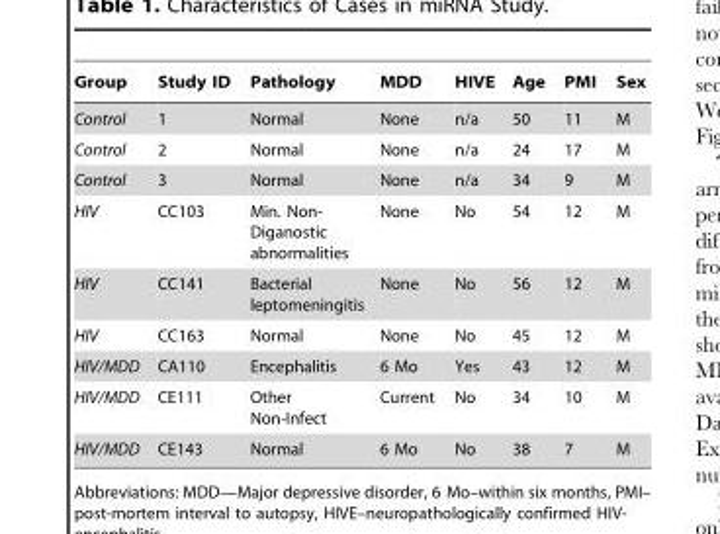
<table><thead><tr><td>Group</td><td>Study ID</td><td>Pathology</td><td>MDD</td><td>HIVE</td><td>Age</td><td>PMI</td><td>Sex</td></tr></thead><tbody><tr><td>Control</td><td>1</td><td>Normal</td><td>None</td><td>n/a</td><td>50</td><td>11</td><td>M</td></tr><tr><td>Control</td><td>2</td><td>Normal</td><td>None</td><td>n/a</td><td>24</td><td>17</td><td>M</td></tr><tr><td>Control</td><td>3</td><td>Normal</td><td>None</td><td>n/a</td><td>34</td><td>9</td><td>M</td></tr><tr><td>HIV</td><td>CC103</td><td>Min. Non- Diganostic abnormalities</td><td>None</td><td>No</td><td>54</td><td>12</td><td>M</td></tr><tr><td>HIV</td><td>CC141</td><td>Bacterial leptomeningitis</td><td>None</td><td>No</td><td>56</td><td>12</td><td>M</td></tr><tr><td>HIV</td><td>CC163</td><td>Normal</td><td>None</td><td>No</td><td>45</td><td>12</td><td>M</td></tr><tr><td>HIV/MDD</td><td>CA110</td><td>Encephalitis</td><td>6 Mo</td><td>Yes</td><td>43</td><td>12</td><td>M</td></tr><tr><td>HIV/MDD</td><td>CE111</td><td>Other Non-Infect</td><td>Current</td><td>No</td><td>34</td><td>10</td><td>M</td></tr><tr><td>HIV/MDD</td><td>CE143</td><td>Normal</td><td>6 Mo</td><td>No</td><td>38</td><td>7</td><td>M</td></tr></tbody></table>